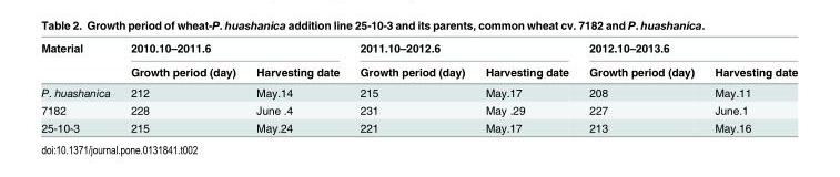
<table><thead><tr><td rowspan="2">Material</td><td colspan="2">2010.10–2011.6</td><td colspan="2">2011.10–2012.6</td><td colspan="2">2012.10–2013.6</td></tr><tr><td>Growth period (day)</td><td>Harvesting date</td><td>Growth period (day)</td><td>Harvesting date</td><td>Growth period (day)</td><td>Harvesting date</td></tr></thead><tbody><tr><td>P. huashanica</td><td>212</td><td>May.14</td><td>215</td><td>May.17</td><td>208</td><td>May.11</td></tr><tr><td>7182</td><td>228</td><td>June .4</td><td>231</td><td>May .29</td><td>227</td><td>June.1</td></tr><tr><td>25-10-3</td><td>215</td><td>May.24</td><td>221</td><td>May.17</td><td>213</td><td>May.16</td></tr></tbody></table>